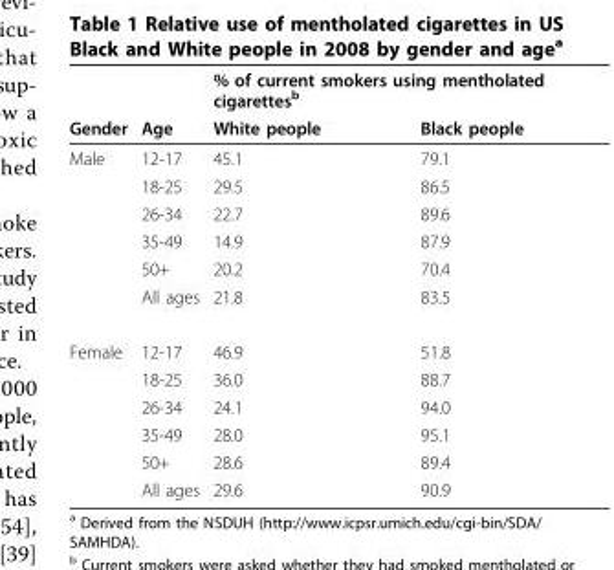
<table><thead><tr><td rowspan="2">Gender</td><td rowspan="2">Age</td><td colspan="2">% of current smokers using mentholated cigarettes<sup>b</sup></td></tr><tr><td>White people</td><td>Black people</td></tr></thead><tbody><tr><td rowspan="6">Male</td><td>12-17</td><td>45.1</td><td>79.1</td></tr><tr><td>18-25</td><td>29.5</td><td>86.5</td></tr><tr><td>26-34</td><td>22.7</td><td>89.6</td></tr><tr><td>35-49</td><td>14.9</td><td>87.9</td></tr><tr><td>50+</td><td>20.2</td><td>70.4</td></tr><tr><td>All ages</td><td>21.8</td><td>83.5</td></tr><tr><td rowspan="6">Female</td><td>12-17</td><td>46.9</td><td>51.8</td></tr><tr><td>18-25</td><td>36.0</td><td>88.7</td></tr><tr><td>26-34</td><td>24.1</td><td>94.0</td></tr><tr><td>35-49</td><td>28.0</td><td>95.1</td></tr><tr><td>50+</td><td>28.6</td><td>89.4</td></tr><tr><td>All ages</td><td>29.6</td><td>90.9</td></tr></tbody></table>